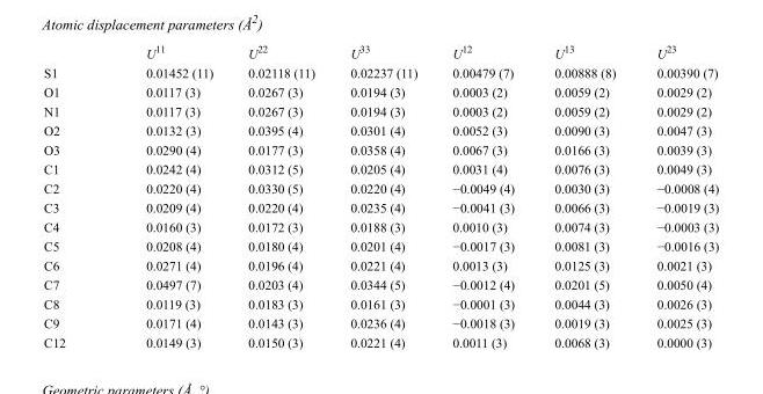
<table><thead><tr><td></td><td>U<sup>11</sup></td><td>U<sup>22</sup></td><td>U<sup>33</sup></td><td>U<sup>12</sup></td><td>U<sup>13</sup></td><td>U<sup>23</sup></td></tr></thead><tbody><tr><td>S1</td><td>0.01452 (11)</td><td>0.02118 (11)</td><td>0.02237 (11)</td><td>0.00479 (7)</td><td>0.00888 (8)</td><td>0.00390 (7)</td></tr><tr><td>O1</td><td>0.0117 (3)</td><td>0.0267 (3)</td><td>0.0194 (3)</td><td>0.0003 (2)</td><td>0.0059 (2)</td><td>0.0029 (2)</td></tr><tr><td>N1</td><td>0.0117 (3)</td><td>0.0267 (3)</td><td>0.0194 (3)</td><td>0.0003 (2)</td><td>0.0059 (2)</td><td>0.0029 (2)</td></tr><tr><td>O2</td><td>0.0132 (3)</td><td>0.0395 (4)</td><td>0.0301 (4)</td><td>0.0052 (3)</td><td>0.0090 (3)</td><td>0.0047 (3)</td></tr><tr><td>O3</td><td>0.0290 (4)</td><td>0.0177 (3)</td><td>0.0358 (4)</td><td>0.0067 (3)</td><td>0.0166 (3)</td><td>0.0039 (3)</td></tr><tr><td>C1</td><td>0.0242 (4)</td><td>0.0312 (5)</td><td>0.0205 (4)</td><td>0.0031 (4)</td><td>0.0076 (3)</td><td>0.0049 (3)</td></tr><tr><td>C2</td><td>0.0220 (4)</td><td>0.0330 (5)</td><td>0.0220 (4)</td><td>−0.0049 (4)</td><td>0.0030 (3)</td><td>−0.0008 (4)</td></tr><tr><td>C3</td><td>0.0209 (4)</td><td>0.0220 (4)</td><td>0.0235 (4)</td><td>−0.0041 (3)</td><td>0.0066 (3)</td><td>−0.0019 (3)</td></tr><tr><td>C4</td><td>0.0160 (3)</td><td>0.0172 (3)</td><td>0.0188 (3)</td><td>0.0010 (3)</td><td>0.0074 (3)</td><td>−0.0003 (3)</td></tr><tr><td>C5</td><td>0.0208 (4)</td><td>0.0180 (4)</td><td>0.0201 (4)</td><td>−0.0017 (3)</td><td>0.0081 (3)</td><td>−0.0016 (3)</td></tr><tr><td>C6</td><td>0.0271 (4)</td><td>0.0196 (4)</td><td>0.0221 (4)</td><td>0.0013 (3)</td><td>0.0125 (3)</td><td>0.0021 (3)</td></tr><tr><td>C7</td><td>0.0497 (7)</td><td>0.0203 (4)</td><td>0.0344 (5)</td><td>−0.0012 (4)</td><td>0.0201 (5)</td><td>0.0050 (4)</td></tr><tr><td>C8</td><td>0.0119 (3)</td><td>0.0183 (3)</td><td>0.0161 (3)</td><td>−0.0001 (3)</td><td>0.0044 (3)</td><td>0.0026 (3)</td></tr><tr><td>C9</td><td>0.0171 (4)</td><td>0.0143 (3)</td><td>0.0236 (4)</td><td>−0.0018 (3)</td><td>0.0019 (3)</td><td>0.0025 (3)</td></tr><tr><td>C12</td><td>0.0149 (3)</td><td>0.0150 (3)</td><td>0.0221 (4)</td><td>0.0011 (3)</td><td>0.0068 (3)</td><td>0.0000 (3)</td></tr></tbody></table>